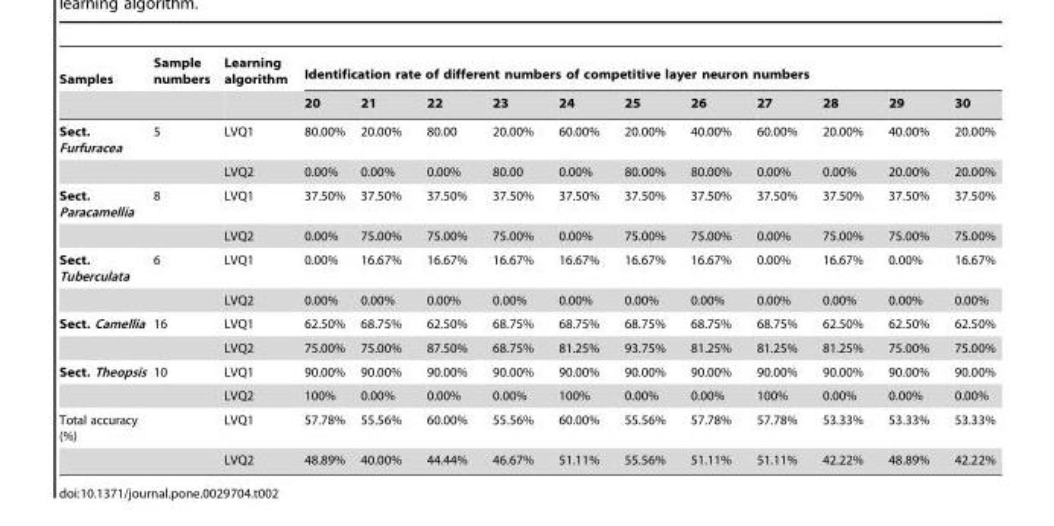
<table><thead><tr><td rowspan="2">Samples</td><td rowspan="2">Sample numbers</td><td rowspan="2">Learning algorithm</td><td colspan="11">Identification rate of different numbers of competitive layer neuron numbers</td></tr><tr><td>20</td><td>21</td><td>22</td><td>23</td><td>24</td><td>25</td><td>26</td><td>27</td><td>28</td><td>29</td><td>30</td></tr></thead><tbody><tr><td rowspan="2">Sect. Furfuracea</td><td>5</td><td>LVQ1</td><td>80.00%</td><td>20.00%</td><td>80.00</td><td>20.00%</td><td>60.00%</td><td>20.00%</td><td>40.00%</td><td>60.00%</td><td>20.00%</td><td>40.00%</td><td>20.00%</td></tr><tr><td></td><td>LVQ2</td><td>0.00%</td><td>0.00%</td><td>0.00%</td><td>80.00</td><td>0.00%</td><td>80.00%</td><td>80.00%</td><td>0.00%</td><td>0.00%</td><td>20.00%</td><td>20.00%</td></tr><tr><td rowspan="2">Sect. Paracamellia</td><td>8</td><td>LVQ1</td><td>37.50%</td><td>37.50%</td><td>37.50%</td><td>37.50%</td><td>37.50%</td><td>37.50%</td><td>37.50%</td><td>37.50%</td><td>37.50%</td><td>37.50%</td><td>37.50%</td></tr><tr><td></td><td>LVQ2</td><td>0.00%</td><td>75.00%</td><td>75.00%</td><td>75.00%</td><td>0.00%</td><td>75.00%</td><td>75.00%</td><td>0.00%</td><td>75.00%</td><td>75.00%</td><td>75.00%</td></tr><tr><td rowspan="2">Sect. Tuberculata</td><td>6</td><td>LVQ1</td><td>0.00%</td><td>16.67%</td><td>16.67%</td><td>16.67%</td><td>16.67%</td><td>16.67%</td><td>16.67%</td><td>0.00%</td><td>16.67%</td><td>0.00%</td><td>16.67%</td></tr><tr><td></td><td>LVQ2</td><td>0.00%</td><td>0.00%</td><td>0.00%</td><td>0.00%</td><td>0.00%</td><td>0.00%</td><td>0.00%</td><td>0.00%</td><td>0.00%</td><td>0.00%</td><td>0.00%</td></tr><tr><td rowspan="2">Sect. Camellia</td><td>16</td><td>LVQ1</td><td>62.50%</td><td>68.75%</td><td>62.50%</td><td>68.75%</td><td>68.75%</td><td>68.75%</td><td>68.75%</td><td>68.75%</td><td>62.50%</td><td>62.50%</td><td>62.50%</td></tr><tr><td></td><td>LVQ2</td><td>75.00%</td><td>75.00%</td><td>87.50%</td><td>68.75%</td><td>81.25%</td><td>93.75%</td><td>81.25%</td><td>81.25%</td><td>81.25%</td><td>75.00%</td><td>75.00%</td></tr><tr><td rowspan="2">Sect. Theopsis</td><td>10</td><td>LVQ1</td><td>90.00%</td><td>90.00%</td><td>90.00%</td><td>90.00%</td><td>90.00%</td><td>90.00%</td><td>90.00%</td><td>90.00%</td><td>90.00%</td><td>90.00%</td><td>90.00%</td></tr><tr><td></td><td>LVQ2</td><td>100%</td><td>0.00%</td><td>0.00%</td><td>0.00%</td><td>100%</td><td>0.00%</td><td>0.00%</td><td>100%</td><td>0.00%</td><td>0.00%</td><td>0.00%</td></tr><tr><td rowspan="2">Total accuracy (%)</td><td></td><td>LVQ1</td><td>57.78%</td><td>55.56%</td><td>60.00%</td><td>55.56%</td><td>60.00%</td><td>55.56%</td><td>57.78%</td><td>57.78%</td><td>53.33%</td><td>53.33%</td><td>53.33%</td></tr><tr><td></td><td>LVQ2</td><td>48.89%</td><td>40.00%</td><td>44.44%</td><td>46.67%</td><td>51.11%</td><td>55.56%</td><td>51.11%</td><td>51.11%</td><td>42.22%</td><td>48.89%</td><td>42.22%</td></tr></tbody></table>